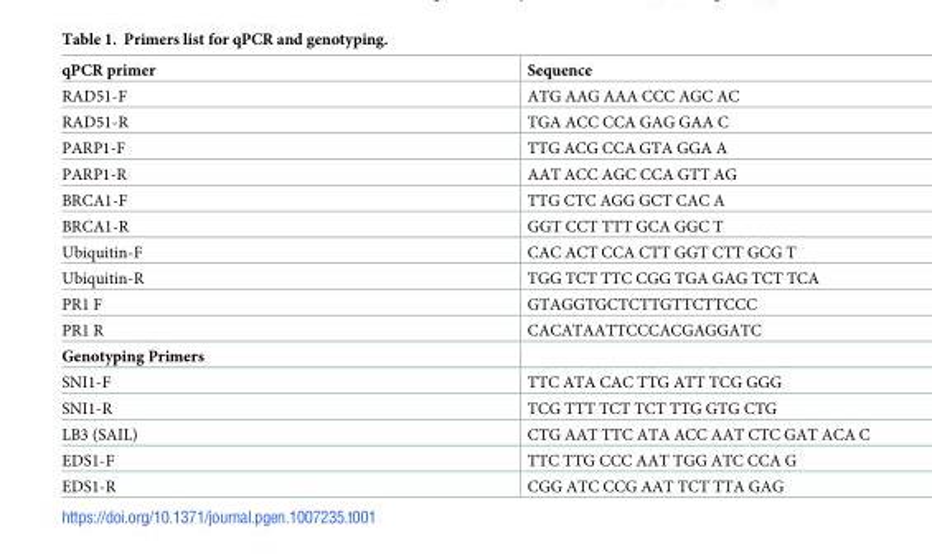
<table><tbody><tr><td>qPCR primer</td><td>Sequence</td></tr><tr><td>RAD51-F</td><td>ATG AAG AAA CCC AGC AC</td></tr><tr><td>RAD51-R</td><td>TGA ACC CCA GAG GAA C</td></tr><tr><td>PARP1-F</td><td>TTG ACG CCA GTA GGA A</td></tr><tr><td>PARP1-R</td><td>AAT ACC AGC CCA GTT AG</td></tr><tr><td>BRCA1-F</td><td>TTG CTC AGG GCT CAC A</td></tr><tr><td>BRCA1-R</td><td>GGT CCT TTT GCA GGC T</td></tr><tr><td>Ubiquitin-F</td><td>CAC ACT CCA CTT GGT CTT GCG T</td></tr><tr><td>Ubiquitin-R</td><td>TGG TCT TTC CGG TGA GAG TCT TCA</td></tr><tr><td>PR1 F</td><td>GTAGGTGCTCTTGTTCTTCCC</td></tr><tr><td>PR1 R</td><td>CACATAATTCCCACGAGGATC</td></tr><tr><td colspan="2">Genotyping Primers</td></tr><tr><td>SNI1-F</td><td>TTC ATA CAC TTG ATT TCG GGG</td></tr><tr><td>SNI1-R</td><td>TCG TTT TCT TCT TTG GTG CTG</td></tr><tr><td>LB3 (SAIL)</td><td>CTG AAT TTC ATA ACC AAT CTC GAT ACA C</td></tr><tr><td>EDS1-F</td><td>TTC TTG CCC AAT TGG ATC CCA G</td></tr><tr><td>EDS1-R</td><td>CGG ATC CCG AAT TCT TTA GAG</td></tr></tbody></table>